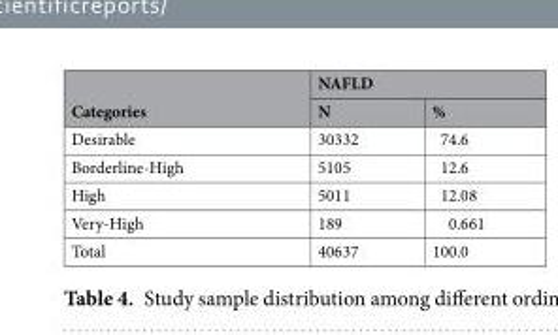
<table><thead><tr><td rowspan="2">Categories</td><td colspan="2">NAFLD</td></tr><tr><td>N</td><td>%</td></tr></thead><tbody><tr><td>Desirable</td><td>30332</td><td>74.6</td></tr><tr><td>Borderline-High</td><td>5105</td><td>12.6</td></tr><tr><td>High</td><td>5011</td><td>12.08</td></tr><tr><td>Very-High</td><td>189</td><td>0.661</td></tr><tr><td>Total</td><td>40637</td><td>100.0</td></tr></tbody></table>